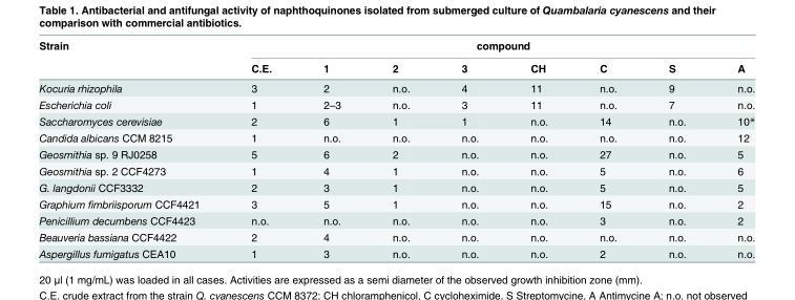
<table><thead><tr><td rowspan="2">Strain</td><td colspan="8">compound</td></tr><tr><td>C.E.</td><td>1</td><td>2</td><td>3</td><td>CH</td><td>C</td><td>S</td><td>A</td></tr></thead><tbody><tr><td>Kocuria rhizophila</td><td>3</td><td>2</td><td>n.o.</td><td>4</td><td>11</td><td>n.o.</td><td>9</td><td>n.o.</td></tr><tr><td>Escherichia coli</td><td>1</td><td>2–3</td><td>n.o.</td><td>3</td><td>11</td><td>n.o.</td><td>7</td><td>n.o.</td></tr><tr><td>Saccharomyces cerevisiae</td><td>2</td><td>6</td><td>1</td><td>1</td><td>n.o.</td><td>14</td><td>n.o.</td><td>10*</td></tr><tr><td>Candida albicans CCM 8215</td><td>1</td><td>n.o.</td><td>n.o.</td><td>n.o.</td><td>n.o.</td><td>n.o.</td><td>n.o.</td><td>12</td></tr><tr><td>Geosmithia sp. 9 RJ0258</td><td>5</td><td>6</td><td>2</td><td>n.o.</td><td>n.o.</td><td>27</td><td>n.o.</td><td>5</td></tr><tr><td>Geosmithia sp. 2 CCF4273</td><td>1</td><td>4</td><td>1</td><td>n.o.</td><td>n.o.</td><td>5</td><td>n.o.</td><td>6</td></tr><tr><td>G. langdonii CCF3332</td><td>2</td><td>3</td><td>1</td><td>n.o.</td><td>n.o.</td><td>5</td><td>n.o.</td><td>5</td></tr><tr><td>Graphium fimbriisporum CCF4421</td><td>3</td><td>5</td><td>1</td><td>n.o.</td><td>n.o.</td><td>15</td><td>n.o.</td><td>2</td></tr><tr><td>Penicillium decumbens CCF4423</td><td>n.o.</td><td>n.o.</td><td>n.o.</td><td>n.o.</td><td>n.o.</td><td>3</td><td>n.o.</td><td>2</td></tr><tr><td>Beauveria bassiana CCF4422</td><td>2</td><td>4</td><td>n.o.</td><td>n.o.</td><td>n.o.</td><td>n.o.</td><td>n.o.</td><td>n.o.</td></tr><tr><td>Aspergillus fumigatus CEA10</td><td>1</td><td>3</td><td>n.o.</td><td>n.o.</td><td>n.o.</td><td>2</td><td>n.o.</td><td>n.o.</td></tr></tbody></table>